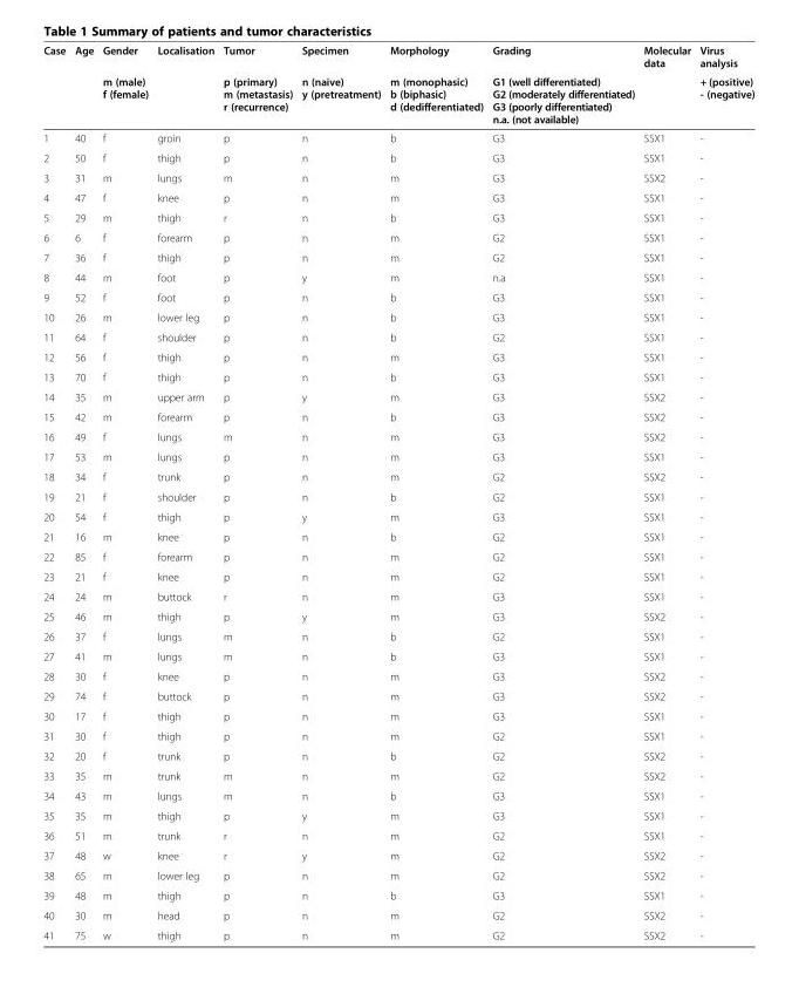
<table><thead><tr><td rowspan="2">Case</td><td rowspan="2">Age</td><td rowspan="2">Gender m (male) f (female)</td><td rowspan="2">Localisation</td><td rowspan="2">Tumor p (primary) m (metastasis) r (recurrence)</td><td rowspan="2">Specimen n (naive) y (pretreatment)</td><td rowspan="2">Morphology m (monophasic) b (biphasic) d (dedifferentiated)</td><td rowspan="2">Grading G1 (well differentiated) G2 (moderately differentiated) G3 (poorly differentiated) n.a. (not available)</td><td rowspan="2">Molecular data</td><td rowspan="2">Virus analysis + (positive) - (negative)</td></tr><tr></tr></thead><tbody><tr><td>1</td><td>40</td><td>f</td><td>groin</td><td>p</td><td>n</td><td>b</td><td>G3</td><td>SSX1</td><td>-</td></tr><tr><td>2</td><td>50</td><td>f</td><td>thigh</td><td>p</td><td>n</td><td>b</td><td>G3</td><td>SSX1</td><td>-</td></tr><tr><td>3</td><td>31</td><td>m</td><td>lungs</td><td>m</td><td>n</td><td>m</td><td>G3</td><td>SSX2</td><td>-</td></tr><tr><td>4</td><td>47</td><td>f</td><td>knee</td><td>p</td><td>n</td><td>m</td><td>G3</td><td>SSX1</td><td>-</td></tr><tr><td>5</td><td>29</td><td>m</td><td>thigh</td><td>r</td><td>n</td><td>b</td><td>G3</td><td>SSX1</td><td>-</td></tr><tr><td>6</td><td>6</td><td>f</td><td>forearm</td><td>p</td><td>n</td><td>m</td><td>G2</td><td>SSX1</td><td>-</td></tr><tr><td>7</td><td>36</td><td>f</td><td>thigh</td><td>p</td><td>n</td><td>m</td><td>G2</td><td>SSX1</td><td>-</td></tr><tr><td>8</td><td>44</td><td>m</td><td>foot</td><td>p</td><td>y</td><td>m</td><td>n.a</td><td>SSX1</td><td>-</td></tr><tr><td>9</td><td>52</td><td>f</td><td>foot</td><td>p</td><td>n</td><td>b</td><td>G3</td><td>SSX1</td><td>-</td></tr><tr><td>10</td><td>26</td><td>m</td><td>lower leg</td><td>p</td><td>n</td><td>b</td><td>G3</td><td>SSX1</td><td>-</td></tr><tr><td>11</td><td>64</td><td>f</td><td>shoulder</td><td>p</td><td>n</td><td>b</td><td>G2</td><td>SSX1</td><td>-</td></tr><tr><td>12</td><td>56</td><td>f</td><td>thigh</td><td>p</td><td>n</td><td>m</td><td>G3</td><td>SSX1</td><td>-</td></tr><tr><td>13</td><td>70</td><td>f</td><td>thigh</td><td>p</td><td>n</td><td>b</td><td>G3</td><td>SSX1</td><td>-</td></tr><tr><td>14</td><td>35</td><td>m</td><td>upper arm</td><td>p</td><td>y</td><td>m</td><td>G3</td><td>SSX2</td><td>-</td></tr><tr><td>15</td><td>42</td><td>m</td><td>forearm</td><td>p</td><td>n</td><td>b</td><td>G3</td><td>SSX2</td><td>-</td></tr><tr><td>16</td><td>49</td><td>f</td><td>lungs</td><td>m</td><td>n</td><td>m</td><td>G3</td><td>SSX2</td><td>-</td></tr><tr><td>17</td><td>53</td><td>m</td><td>lungs</td><td>p</td><td>n</td><td>m</td><td>G3</td><td>SSX1</td><td>-</td></tr><tr><td>18</td><td>34</td><td>f</td><td>trunk</td><td>p</td><td>n</td><td>m</td><td>G2</td><td>SSX2</td><td>-</td></tr><tr><td>19</td><td>21</td><td>f</td><td>shoulder</td><td>p</td><td>n</td><td>b</td><td>G2</td><td>SSX1</td><td>-</td></tr><tr><td>20</td><td>54</td><td>f</td><td>thigh</td><td>p</td><td>y</td><td>m</td><td>G3</td><td>SSX1</td><td>-</td></tr><tr><td>21</td><td>16</td><td>m</td><td>knee</td><td>p</td><td>n</td><td>b</td><td>G2</td><td>SSX1</td><td>-</td></tr><tr><td>22</td><td>85</td><td>f</td><td>forearm</td><td>p</td><td>n</td><td>m</td><td>G2</td><td>SSX1</td><td>-</td></tr><tr><td>23</td><td>21</td><td>f</td><td>knee</td><td>p</td><td>n</td><td>m</td><td>G2</td><td>SSX1</td><td>-</td></tr><tr><td>24</td><td>24</td><td>m</td><td>buttock</td><td>r</td><td>n</td><td>m</td><td>G3</td><td>SSX1</td><td>-</td></tr><tr><td>25</td><td>46</td><td>m</td><td>thigh</td><td>p</td><td>y</td><td>m</td><td>G3</td><td>SSX2</td><td>-</td></tr><tr><td>26</td><td>37</td><td>f</td><td>lungs</td><td>m</td><td>n</td><td>b</td><td>G2</td><td>SSX1</td><td>-</td></tr><tr><td>27</td><td>41</td><td>m</td><td>lungs</td><td>m</td><td>n</td><td>b</td><td>G3</td><td>SSX1</td><td>-</td></tr><tr><td>28</td><td>30</td><td>f</td><td>knee</td><td>p</td><td>n</td><td>m</td><td>G3</td><td>SSX2</td><td>-</td></tr><tr><td>29</td><td>74</td><td>f</td><td>buttock</td><td>p</td><td>n</td><td>m</td><td>G3</td><td>SSX2</td><td>-</td></tr><tr><td>30</td><td>17</td><td>f</td><td>thigh</td><td>p</td><td>n</td><td>m</td><td>G3</td><td>SSX1</td><td>-</td></tr><tr><td>31</td><td>30</td><td>f</td><td>thigh</td><td>p</td><td>n</td><td>m</td><td>G2</td><td>SSX1</td><td>-</td></tr><tr><td>32</td><td>20</td><td>f</td><td>trunk</td><td>p</td><td>n</td><td>b</td><td>G2</td><td>SSX2</td><td>-</td></tr><tr><td>33</td><td>35</td><td>m</td><td>trunk</td><td>m</td><td>n</td><td>m</td><td>G2</td><td>SSX2</td><td>-</td></tr><tr><td>34</td><td>43</td><td>m</td><td>lungs</td><td>m</td><td>n</td><td>b</td><td>G3</td><td>SSX1</td><td>-</td></tr><tr><td>35</td><td>35</td><td>m</td><td>thigh</td><td>p</td><td>y</td><td>m</td><td>G3</td><td>SSX1</td><td>-</td></tr><tr><td>36</td><td>51</td><td>m</td><td>trunk</td><td>r</td><td>n</td><td>m</td><td>G2</td><td>SSX1</td><td>-</td></tr><tr><td>37</td><td>48</td><td>w</td><td>knee</td><td>r</td><td>y</td><td>m</td><td>G2</td><td>SSX2</td><td>-</td></tr><tr><td>38</td><td>65</td><td>m</td><td>lower leg</td><td>p</td><td>n</td><td>m</td><td>G2</td><td>SSX2</td><td>-</td></tr><tr><td>39</td><td>48</td><td>m</td><td>thigh</td><td>p</td><td>n</td><td>b</td><td>G3</td><td>SSX1</td><td>-</td></tr><tr><td>40</td><td>30</td><td>m</td><td>head</td><td>p</td><td>n</td><td>m</td><td>G2</td><td>SSX2</td><td>-</td></tr><tr><td>41</td><td>75</td><td>w</td><td>thigh</td><td>p</td><td>n</td><td>m</td><td>G2</td><td>SSX2</td><td>-</td></tr></tbody></table>